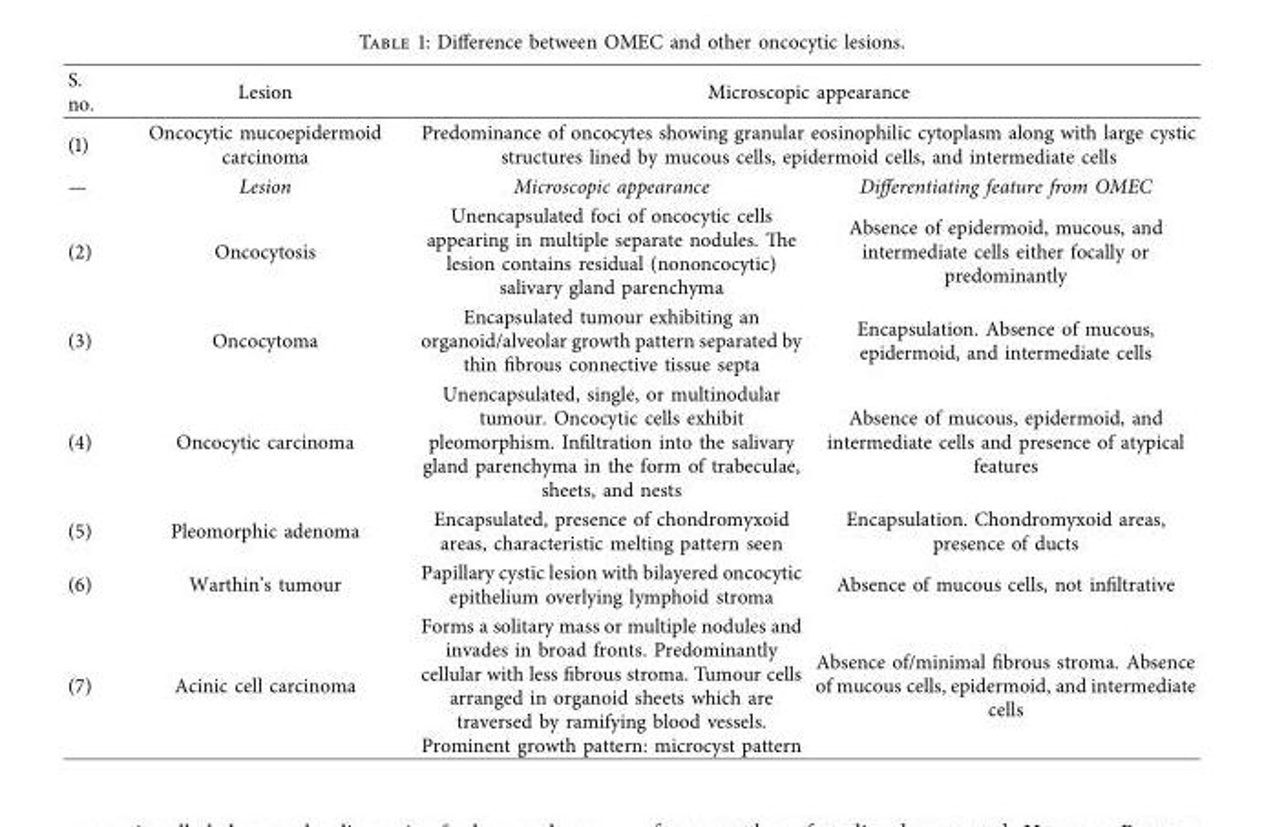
<table><thead><tr><td rowspan="3">S. no. (1) —</td><td rowspan="3">Lesion Oncocytic mucoepidermoid carcinoma Lesion</td><td rowspan="2" colspan="2">Microscopic appearance Predominance of oncocytes showing granular eosinophilic cytoplasm along with large cystic structures lined by mucous cells, epidermoid cells, and intermediate cells</td></tr><tr></tr><tr><td>Microscopic appearance</td><td>Diferentiating feature from OMEC</td></tr></thead><tbody><tr><td>(2)</td><td>Oncocytosis</td><td>Unencapsulated foci of oncocytic cells appearing in multiple separate nodules. Te lesion contains residual (nononcocytic) salivary gland parenchyma</td><td>Absence of epidermoid, mucous, and intermediate cells either focally or predominantly</td></tr><tr><td>(3)</td><td>Oncocytoma</td><td>Encapsulated tumour exhibiting an organoid/alveolar growth pattern separated by thin fbrous connective tissue septa</td><td>Encapsulation. Absence of mucous, epidermoid, and intermediate cells</td></tr><tr><td>(4)</td><td>Oncocytic carcinoma</td><td>Unencapsulated, single, or multinodular tumour. Oncocytic cells exhibit pleomorphism. Infltration into the salivary gland parenchyma in the form of trabeculae, sheets, and nests</td><td>Absence of mucous, epidermoid, and intermediate cells and presence of atypical features</td></tr><tr><td>(5)</td><td>Pleomorphic adenoma</td><td>Encapsulated, presence of chondromyxoid areas, characteristic melting pattern seen</td><td>Encapsulation. Chondromyxoid areas, presence of ducts</td></tr><tr><td>(6)</td><td>Warthin’s tumour</td><td>Papillary cystic lesion with bilayered oncocytic epithelium overlying lymphoid stroma</td><td>Absence of mucous cells, not infltrative</td></tr><tr><td>(7)</td><td>Acinic cell carcinoma</td><td>Forms a solitary mass or multiple nodules and invades in broad fronts. Predominantly cellular with less fbrous stroma. Tumour cells arranged in organoid sheets which are traversed by ramifying blood vessels. Prominent growth pattern: microcyst pattern</td><td>Absence of/minimal fbrous stroma. Absence of mucous cells, epidermoid, and intermediate cells</td></tr></tbody></table>